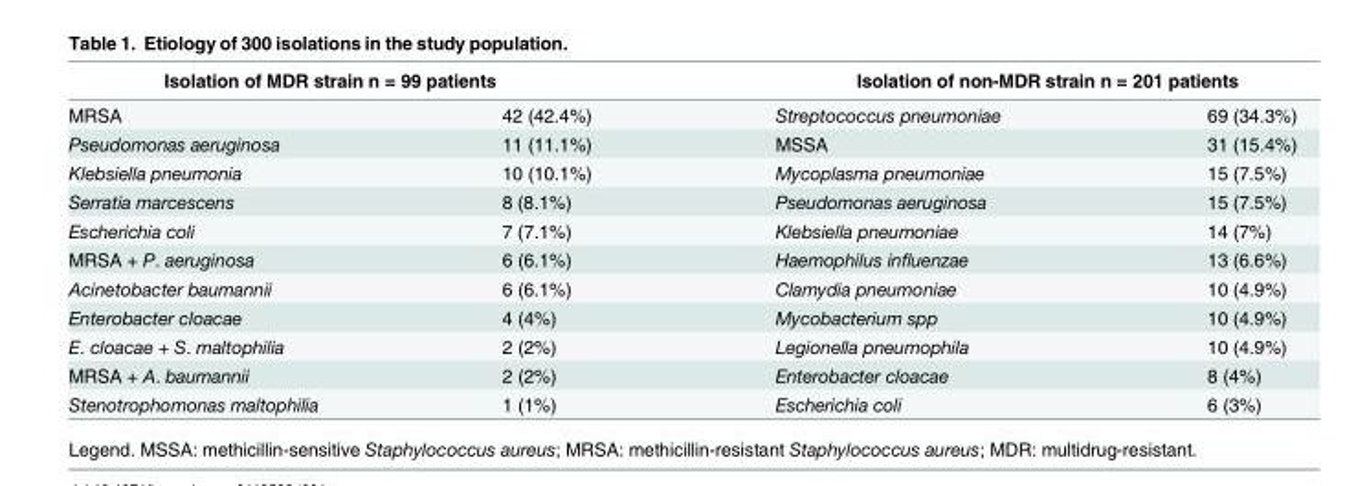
<table><thead><tr><td colspan="2">Isolation of MDR strain n = 99 patients</td><td colspan="2">Isolation of non-MDR strain n = 201 patients</td></tr><tr><td>MRSA</td><td>42 (42.4%)</td><td>Streptococcus pneumoniae</td><td>69 (34.3%)</td></tr></thead><tbody><tr><td>Pseudomonas aeruginosa</td><td>11 (11.1%)</td><td>MSSA</td><td>31 (15.4%)</td></tr><tr><td>Klebsiella pneumonia</td><td>10 (10.1%)</td><td>Mycoplasma pneumoniae</td><td>15 (7.5%)</td></tr><tr><td>Serratia marcescens</td><td>8 (8.1%)</td><td>Pseudomonas aeruginosa</td><td>15 (7.5%)</td></tr><tr><td>Escherichia coli</td><td>7 (7.1%)</td><td>Klebsiella pneumoniae</td><td>14 (7%)</td></tr><tr><td>MRSA + P. aeruginosa</td><td>6 (6.1%)</td><td>Haemophilus influenzae</td><td>13 (6.6%)</td></tr><tr><td>Acinetobacter baumannii</td><td>6 (6.1%)</td><td>Clamydia pneumoniae</td><td>10 (4.9%)</td></tr><tr><td>Enterobacter cloacae</td><td>4 (4%)</td><td>Mycobacterium spp</td><td>10 (4.9%)</td></tr><tr><td>E. cloacae + S. maltophilia</td><td>2 (2%)</td><td>Legionella pneumophila</td><td>10 (4.9%)</td></tr><tr><td>MRSA + A. baumannii</td><td>2 (2%)</td><td>Enterobacter cloacae</td><td>8 (4%)</td></tr><tr><td>Stenotrophomonas maltophilia</td><td>1 (1%)</td><td>Escherichia coli</td><td>6 (3%)</td></tr></tbody></table>